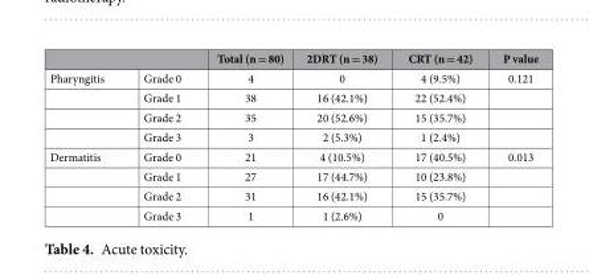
<table><thead><tr><td></td><td></td><td>Total (n = 80)</td><td>2DRT (n = 38)</td><td>CRT (n = 42)</td><td>P value</td></tr></thead><tbody><tr><td rowspan="4">Pharyngitis</td><td>Grade 0</td><td>4</td><td>0</td><td>4 (9.5%)</td><td>0.121</td></tr><tr><td>Grade 1</td><td>38</td><td>16 (42.1%)</td><td>22 (52.4%)</td><td></td></tr><tr><td>Grade 2</td><td>35</td><td>20 (52.6%)</td><td>15 (35.7%)</td><td></td></tr><tr><td>Grade 3</td><td>3</td><td>2 (5.3%)</td><td>1 (2.4%)</td><td></td></tr><tr><td rowspan="4">Dermatitis</td><td>Grade 0</td><td>21</td><td>4 (10.5%)</td><td>17 (40.5%)</td><td>0.013</td></tr><tr><td>Grade 1</td><td>27</td><td>17 (44.7%)</td><td>10 (23.8%)</td><td></td></tr><tr><td>Grade 2</td><td>31</td><td>16 (42.1%)</td><td>15 (35.7%)</td><td></td></tr><tr><td>Grade 3</td><td>1</td><td>1 (2.6%)</td><td>0</td><td></td></tr></tbody></table>